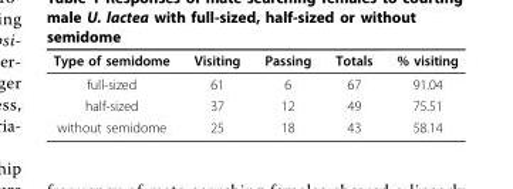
<table><thead><tr><td>Type of semidome</td><td>Visiting</td><td>Passing</td><td>Totals</td><td>% visiting</td></tr></thead><tbody><tr><td>full-sized</td><td>61</td><td>6</td><td>67</td><td>91.04</td></tr><tr><td>half-sized</td><td>37</td><td>12</td><td>49</td><td>75.51</td></tr><tr><td>without semidome</td><td>25</td><td>18</td><td>43</td><td>58.14</td></tr></tbody></table>